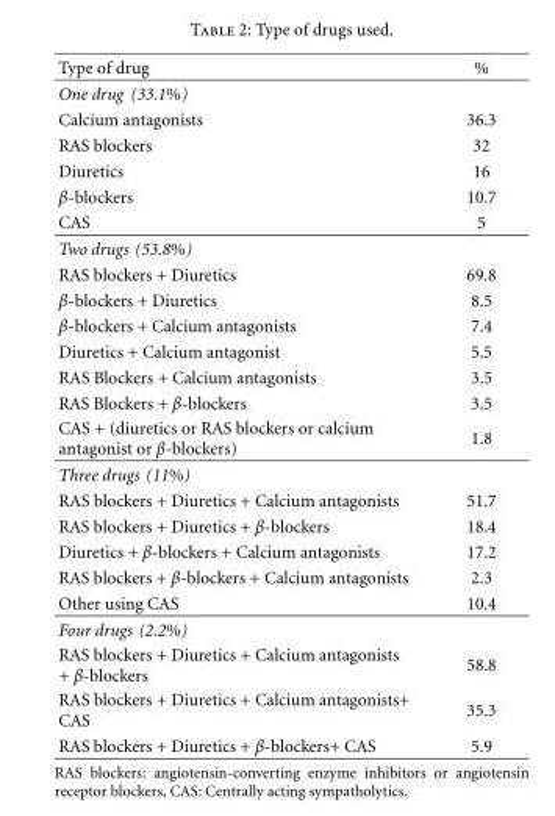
<table><thead><tr><td>Type of drug</td><td>%</td></tr></thead><tbody><tr><td colspan="2">One drug (33.1%)</td></tr><tr><td>Calcium antagonists</td><td>36.3</td></tr><tr><td>RAS blockers</td><td>32</td></tr><tr><td>Diuretics</td><td>16</td></tr><tr><td>β-blockers</td><td>10.7</td></tr><tr><td>CAS</td><td>5</td></tr><tr><td colspan="2">Two drugs (53.8%)</td></tr><tr><td>RAS blockers + Diuretics</td><td>69.8</td></tr><tr><td>β-blockers + Diuretics</td><td>8.5</td></tr><tr><td>β-blockers + Calcium antagonists</td><td>7.4</td></tr><tr><td>Diuretics + Calcium antagonist</td><td>5.5</td></tr><tr><td>RAS Blockers + Calcium antagonists</td><td>3.5</td></tr><tr><td>RAS Blockers + β-blockers</td><td>3.5</td></tr><tr><td>CAS + (diuretics or RAS blockers or calcium antagonist or β-blockers)</td><td>1.8</td></tr><tr><td colspan="2">Three drugs (11%)</td></tr><tr><td>RAS blockers + Diuretics + Calcium antagonists</td><td>51.7</td></tr><tr><td>RAS blockers + Diuretics + β-blockers</td><td>18.4</td></tr><tr><td>Diuretics + β-blockers + Calcium antagonists</td><td>17.2</td></tr><tr><td>RAS blockers + β-blockers + Calcium antagonists</td><td>2.3</td></tr><tr><td>Other using CAS</td><td>10.4</td></tr><tr><td colspan="2">Four drugs (2.2%)</td></tr><tr><td>RAS blockers + Diuretics + Calcium antagonists + β-blockers</td><td>58.8</td></tr><tr><td>RAS blockers + Diuretics + Calcium antagonists+ CAS</td><td>35.3</td></tr><tr><td>RAS blockers + Diuretics + β-blockers+ CAS</td><td>5.9</td></tr></tbody></table>